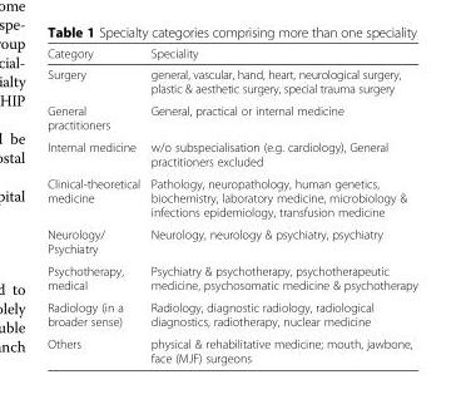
<table><thead><tr><td>Category</td><td>Speciality</td></tr></thead><tbody><tr><td>Surgery</td><td>general, vascular, hand, heart, neurological surgery, plastic &amp; aesthetic surgery, special trauma surgery</td></tr><tr><td>General practitioners</td><td>General, practical or internal medicine</td></tr><tr><td>Internal medicine</td><td>w/o subspecialisation (e.g. cardiology), General practitioners excluded</td></tr><tr><td>Clinical-theoretical medicine</td><td>Pathology, neuropathology, human genetics, biochemistry, laboratory medicine, microbiology &amp; infections epidemiology, transfusion medicine</td></tr><tr><td>Neurology/ Psychiatry</td><td>Neurology, neurology &amp; psychiatry, psychiatry</td></tr><tr><td>Psychotherapy, medical</td><td>Psychiatry &amp; psychotherapy, psychotherapeutic medicine, psychosomatic medicine &amp; psychotherapy</td></tr><tr><td>Radiology (in a broader sense)</td><td>Radiology, diagnostic radiology, radiological diagnostics, radiotherapy, nuclear medicine</td></tr><tr><td>Others</td><td>physical &amp; rehabilitative medicine; mouth, jawbone, face (MJF) surgeons</td></tr></tbody></table>